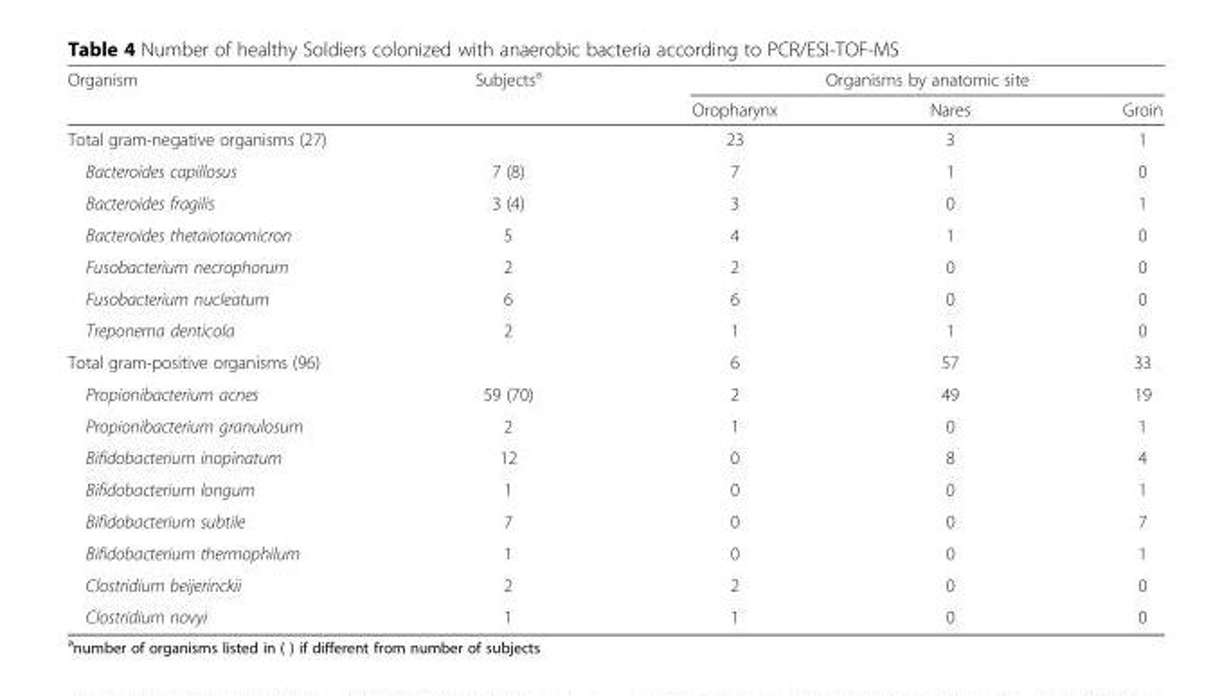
<table><thead><tr><td rowspan="2">Organism</td><td rowspan="2">Subjects<sup>a</sup></td><td colspan="3">Organisms by anatomic site</td></tr><tr><td>Oropharynx</td><td>Nares</td><td>Groin</td></tr></thead><tbody><tr><td>Total gram-negative organisms (27)</td><td></td><td>23</td><td>3</td><td>1</td></tr><tr><td>Bacteroides capillosus</td><td>7 (8)</td><td>7</td><td>1</td><td>0</td></tr><tr><td>Bacteroides fragilis</td><td>3 (4)</td><td>3</td><td>0</td><td>1</td></tr><tr><td>Bacteroides thetaiotaomicron</td><td>5</td><td>4</td><td>1</td><td>0</td></tr><tr><td>Fusobacterium necrophorum</td><td>2</td><td>2</td><td>0</td><td>0</td></tr><tr><td>Fusobacterium nucleatum</td><td>6</td><td>6</td><td>0</td><td>0</td></tr><tr><td>Treponema denticola</td><td>2</td><td>1</td><td>1</td><td>0</td></tr><tr><td>Total gram-positive organisms (96)</td><td></td><td>6</td><td>57</td><td>33</td></tr><tr><td>Propionibacterium acnes</td><td>59 (70)</td><td>2</td><td>49</td><td>19</td></tr><tr><td>Propionibacterium granulosum</td><td>2</td><td>1</td><td>0</td><td>1</td></tr><tr><td>Bifidobacterium inopinatum</td><td>12</td><td>0</td><td>8</td><td>4</td></tr><tr><td>Bifidobacterium longum</td><td>1</td><td>0</td><td>0</td><td>1</td></tr><tr><td>Bifidobacterium subtile</td><td>7</td><td>0</td><td>0</td><td>7</td></tr><tr><td>Bifidobacterium thermophilum</td><td>1</td><td>0</td><td>0</td><td>1</td></tr><tr><td>Clostridium beijerinckii</td><td>2</td><td>2</td><td>0</td><td>0</td></tr><tr><td>Clostridium novyi</td><td>1</td><td>1</td><td>0</td><td>0</td></tr></tbody></table>